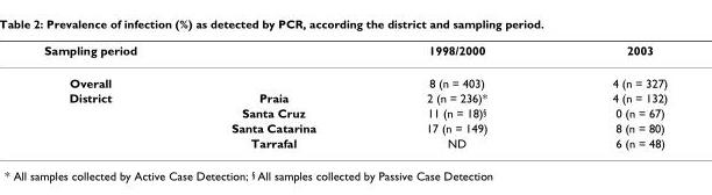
<table><thead><tr><td>Sampling period</td><td></td><td>1998/2000</td><td>2003</td></tr></thead><tbody><tr><td>Overall</td><td></td><td>8 (n = 403)</td><td>4 (n = 327)</td></tr><tr><td rowspan="4">District</td><td>Praia</td><td>2 (n = 236)*</td><td>4 (n = 132)</td></tr><tr><td>Santa Cruz</td><td>11 (n = 18)<sup>§</sup></td><td>0 (n = 67)</td></tr><tr><td>Santa Catarina</td><td>17 (n = 149)</td><td>8 (n = 80)</td></tr><tr><td>Tarrafal</td><td>ND</td><td>6 (n = 48)</td></tr></tbody></table>